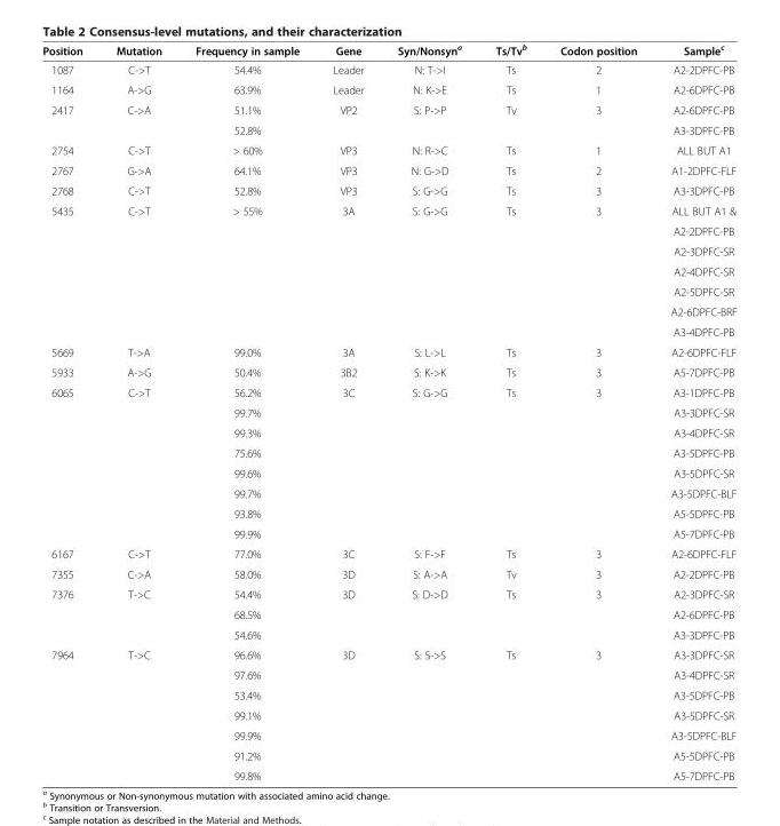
<table><thead><tr><td>Position</td><td>Mutation</td><td>Frequency in sample</td><td>Gene</td><td>Syn/Nonsyn<sup>a</sup></td><td>Ts/Tv<sup>b</sup></td><td>Codon position</td><td>Sample<sup>c</sup></td></tr></thead><tbody><tr><td>1087</td><td>C-&gt;T</td><td>54.4%</td><td>Leader</td><td>N: T-&gt;I</td><td>Ts</td><td>2</td><td>A2-2DPFC-PB</td></tr><tr><td>1164</td><td>A-&gt;G</td><td>63.9%</td><td>Leader</td><td>N: K-&gt;E</td><td>Ts</td><td>1</td><td>A2-6DPFC-PB</td></tr><tr><td rowspan="2">2417</td><td rowspan="2">C-&gt;A</td><td>51.1%</td><td rowspan="2">VP2</td><td rowspan="2">S: P-&gt;P</td><td rowspan="2">Tv</td><td rowspan="2">3</td><td>A2-6DPFC-PB</td></tr><tr><td>52.8%</td><td>A3-3DPFC-PB</td></tr><tr><td>2754</td><td>C-&gt;T</td><td>&gt; 60%</td><td>VP3</td><td>N: R-&gt;C</td><td>Ts</td><td>1</td><td>ALL BUT A1</td></tr><tr><td>2767</td><td>G-&gt;A</td><td>64.1%</td><td>VP3</td><td>N: G-&gt;D</td><td>Ts</td><td>2</td><td>A1-2DPFC-FLF</td></tr><tr><td>2768</td><td>C-&gt;T</td><td>52.8%</td><td>VP3</td><td>S: G-&gt;G</td><td>Ts</td><td>3</td><td>A3-3DPFC-PB</td></tr><tr><td rowspan="7">5435</td><td rowspan="7">C-&gt;T</td><td rowspan="7">&gt; 55%</td><td rowspan="7">3A</td><td rowspan="7">S: G-&gt;G</td><td rowspan="7">Ts</td><td rowspan="7">3</td><td>ALL BUT A1 &amp;</td></tr><tr><td>A2-2DPFC-PB</td></tr><tr><td>A2-3DPFC-SR</td></tr><tr><td>A2-4DPFC-SR</td></tr><tr><td>A2-5DPFC-SR</td></tr><tr><td>A2-6DPFC-BRF</td></tr><tr><td>A3-4DPFC-PB</td></tr><tr><td>5669</td><td>T-&gt;A</td><td>99.0%</td><td>3A</td><td>S: L-&gt;L</td><td>Ts</td><td>3</td><td>A2-6DPFC-FLF</td></tr><tr><td>5933</td><td>A-&gt;G</td><td>50.4%</td><td>3B2</td><td>S: K-&gt;K</td><td>Ts</td><td>3</td><td>A5-7DPFC-PB</td></tr><tr><td rowspan="8">6065</td><td rowspan="8">C-&gt;T</td><td>56.2%</td><td rowspan="8">3C</td><td rowspan="8">S: G-&gt;G</td><td rowspan="8">Ts</td><td rowspan="8">3</td><td>A3-1DPFC-PB</td></tr><tr><td>99.7%</td><td>A3-3DPFC-SR</td></tr><tr><td>99.3%</td><td>A3-4DPFC-SR</td></tr><tr><td>75.6%</td><td>A3-5DPFC-PB</td></tr><tr><td>99.6%</td><td>A3-5DPFC-SR</td></tr><tr><td>99.7%</td><td>A3-5DPFC-BLF</td></tr><tr><td>93.8%</td><td>A5-5DPFC-PB</td></tr><tr><td>99.9%</td><td>A5-7DPFC-PB</td></tr><tr><td>6167</td><td>C-&gt;T</td><td>77.0%</td><td>3C</td><td>S: F-&gt;F</td><td>Ts</td><td>3</td><td>A2-6DPFC-FLF</td></tr><tr><td>7355</td><td>C-&gt;A</td><td>58.0%</td><td>3D</td><td>S: A-&gt;A</td><td>Tv</td><td>3</td><td>A2-2DPFC-PB</td></tr><tr><td rowspan="3">7376</td><td rowspan="3">T-&gt;C</td><td>54.4%</td><td rowspan="3">3D</td><td rowspan="3">S: D-&gt;D</td><td rowspan="3">Ts</td><td rowspan="3">3</td><td>A2-3DPFC-SR</td></tr><tr><td>68.5%</td><td>A2-6DPFC-PB</td></tr><tr><td>54.6%</td><td>A3-3DPFC-PB</td></tr><tr><td rowspan="7">7964</td><td rowspan="6">T-&gt;C</td><td>96.6%</td><td rowspan="6">3D</td><td rowspan="6">S: S-&gt;S</td><td rowspan="6">Ts</td><td rowspan="6">3</td><td>A3-3DPFC-SR</td></tr><tr><td>97.6%</td><td>A3-4DPFC-SR</td></tr><tr><td>53.4%</td><td>A3-5DPFC-PB</td></tr><tr><td>99.1%</td><td>A3-5DPFC-SR</td></tr><tr><td>99.9%</td><td>A3-5DPFC-BLF</td></tr><tr><td>91.2%</td><td>A5-5DPFC-PB</td></tr><tr><td></td><td>99.8%</td><td></td><td></td><td></td><td></td><td>A5-7DPFC-PB</td></tr></tbody></table>